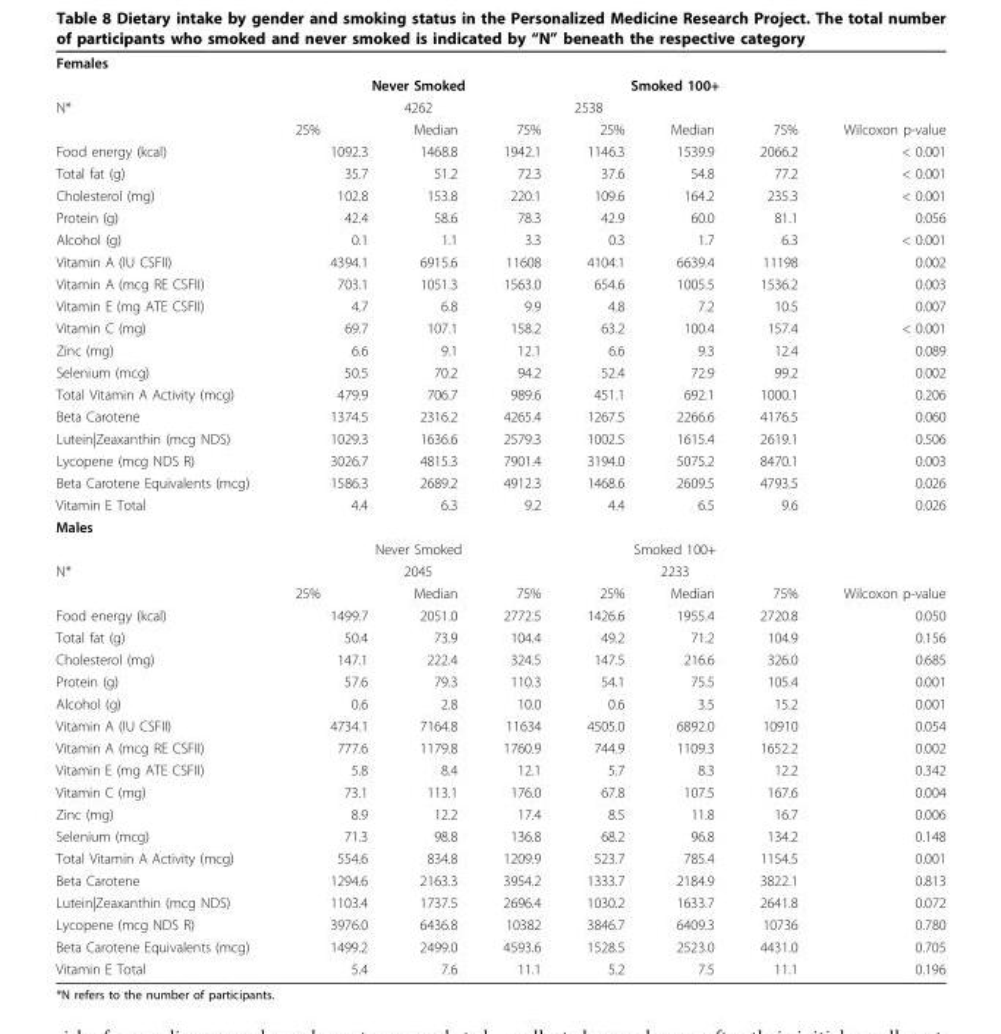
<table><tbody><tr><td colspan="8">Females</td></tr><tr><td></td><td colspan="3">Never Smoked</td><td colspan="3">Smoked 100+</td><td></td></tr><tr><td rowspan="2">N*</td><td></td><td>4262</td><td></td><td>2538</td><td></td><td></td><td></td></tr><tr><td>25%</td><td>Median</td><td>75%</td><td>25%</td><td>Median</td><td>75%</td><td>Wilcoxon p-value</td></tr><tr><td>Food energy (kcal)</td><td>1092.3</td><td>1468.8</td><td>1942.1</td><td>1146.3</td><td>1539.9</td><td>2066.2</td><td>&lt; 0.001</td></tr><tr><td>Total fat (g)</td><td>35.7</td><td>51.2</td><td>72.3</td><td>37.6</td><td>54.8</td><td>77.2</td><td>&lt; 0.001</td></tr><tr><td>Cholesterol (mg)</td><td>102.8</td><td>153.8</td><td>220.1</td><td>109.6</td><td>164.2</td><td>235.3</td><td>&lt; 0.001</td></tr><tr><td>Protein (g)</td><td>42.4</td><td>58.6</td><td>78.3</td><td>42.9</td><td>60.0</td><td>81.1</td><td>0.056</td></tr><tr><td>Alcohol (g)</td><td>0.1</td><td>1.1</td><td>3.3</td><td>0.3</td><td>1.7</td><td>6.3</td><td>&lt; 0.001</td></tr><tr><td>Vitamin A (IU CSFII)</td><td>4394.1</td><td>6915.6</td><td>11608</td><td>4104.1</td><td>6639.4</td><td>11198</td><td>0.002</td></tr><tr><td>Vitamin A (mcg RE CSFII)</td><td>703.1</td><td>1051.3</td><td>1563.0</td><td>654.6</td><td>1005.5</td><td>1536.2</td><td>0.003</td></tr><tr><td>Vitamin E (mg ATE CSFII)</td><td>4.7</td><td>6.8</td><td>9.9</td><td>4.8</td><td>7.2</td><td>10.5</td><td>0.007</td></tr><tr><td>Vitamin C (mg)</td><td>69.7</td><td>107.1</td><td>158.2</td><td>63.2</td><td>100.4</td><td>157.4</td><td>&lt; 0.001</td></tr><tr><td>Zinc (mg)</td><td>6.6</td><td>9.1</td><td>12.1</td><td>6.6</td><td>9.3</td><td>12.4</td><td>0.089</td></tr><tr><td>Selenium (mcg)</td><td>50.5</td><td>70.2</td><td>94.2</td><td>52.4</td><td>72.9</td><td>99.2</td><td>0.002</td></tr><tr><td>Total Vitamin A Activity (mcg)</td><td>479.9</td><td>706.7</td><td>989.6</td><td>451.1</td><td>692.1</td><td>1000.1</td><td>0.206</td></tr><tr><td>Beta Carotene</td><td>1374.5</td><td>2316.2</td><td>4265.4</td><td>1267.5</td><td>2266.6</td><td>4176.5</td><td>0.060</td></tr><tr><td>Lutein|Zeaxanthin (mcg NDS)</td><td>1029.3</td><td>1636.6</td><td>2579.3</td><td>1002.5</td><td>1615.4</td><td>2619.1</td><td>0.506</td></tr><tr><td>Lycopene (mcg NDS R)</td><td>3026.7</td><td>4815.3</td><td>7901.4</td><td>3194.0</td><td>5075.2</td><td>8470.1</td><td>0.003</td></tr><tr><td>Beta Carotene Equivalents (mcg)</td><td>1586.3</td><td>2689.2</td><td>4912.3</td><td>1468.6</td><td>2609.5</td><td>4793.5</td><td>0.026</td></tr><tr><td>Vitamin E Total</td><td>4.4</td><td>6.3</td><td>9.2</td><td>4.4</td><td>6.5</td><td>9.6</td><td>0.026</td></tr><tr><td colspan="8">Males</td></tr><tr><td></td><td colspan="3">Never Smoked</td><td colspan="3">Smoked 100+</td><td></td></tr><tr><td rowspan="2">N*</td><td></td><td>2045</td><td></td><td></td><td>2233</td><td></td><td></td></tr><tr><td>25%</td><td>Median</td><td>75%</td><td>25%</td><td>Median</td><td>75%</td><td>Wilcoxon p-value</td></tr><tr><td>Food energy (kcal)</td><td>1499.7</td><td>2051.0</td><td>2772.5</td><td>1426.6</td><td>1955.4</td><td>2720.8</td><td>0.050</td></tr><tr><td>Total fat (g)</td><td>50.4</td><td>73.9</td><td>104.4</td><td>49.2</td><td>71.2</td><td>104.9</td><td>0.156</td></tr><tr><td>Cholesterol (mg)</td><td>147.1</td><td>222.4</td><td>324.5</td><td>147.5</td><td>216.6</td><td>326.0</td><td>0.685</td></tr><tr><td>Protein (g)</td><td>57.6</td><td>79.3</td><td>110.3</td><td>54.1</td><td>75.5</td><td>105.4</td><td>0.001</td></tr><tr><td>Alcohol (g)</td><td>0.6</td><td>2.8</td><td>10.0</td><td>0.6</td><td>3.5</td><td>15.2</td><td>0.001</td></tr><tr><td>Vitamin A (IU CSFII)</td><td>4734.1</td><td>7164.8</td><td>11634</td><td>4505.0</td><td>6892.0</td><td>10910</td><td>0.054</td></tr><tr><td>Vitamin A (mcg RE CSFII)</td><td>777.6</td><td>1179.8</td><td>1760.9</td><td>744.9</td><td>1109.3</td><td>1652.2</td><td>0.002</td></tr><tr><td>Vitamin E (mg ATE CSFII)</td><td>5.8</td><td>8.4</td><td>12.1</td><td>5.7</td><td>8.3</td><td>12.2</td><td>0.342</td></tr><tr><td>Vitamin C (mg)</td><td>73.1</td><td>113.1</td><td>176.0</td><td>67.8</td><td>107.5</td><td>167.6</td><td>0.004</td></tr><tr><td>Zinc (mg)</td><td>8.9</td><td>12.2</td><td>17.4</td><td>8.5</td><td>11.8</td><td>16.7</td><td>0.006</td></tr><tr><td>Selenium (mcg)</td><td>71.3</td><td>98.8</td><td>136.8</td><td>68.2</td><td>96.8</td><td>134.2</td><td>0.148</td></tr><tr><td>Total Vitamin A Activity (mcg)</td><td>554.6</td><td>834.8</td><td>1209.9</td><td>523.7</td><td>785.4</td><td>1154.5</td><td>0.001</td></tr><tr><td>Beta Carotene</td><td>1294.6</td><td>2163.3</td><td>3954.2</td><td>1333.7</td><td>2184.9</td><td>3822.1</td><td>0.813</td></tr><tr><td>Lutein|Zeaxanthin (mcg NDS)</td><td>1103.4</td><td>1737.5</td><td>2696.4</td><td>1030.2</td><td>1633.7</td><td>2641.8</td><td>0.072</td></tr><tr><td>Lycopene (mcg NDS R)</td><td>3976.0</td><td>6436.8</td><td>10382</td><td>3846.7</td><td>6409.3</td><td>10736</td><td>0.780</td></tr><tr><td>Beta Carotene Equivalents (mcg)</td><td>1499.2</td><td>2499.0</td><td>4593.6</td><td>1528.5</td><td>2523.0</td><td>4431.0</td><td>0.705</td></tr><tr><td>Vitamin E Total</td><td>5.4</td><td>7.6</td><td>11.1</td><td>5.2</td><td>7.5</td><td>11.1</td><td>0.196</td></tr></tbody></table>